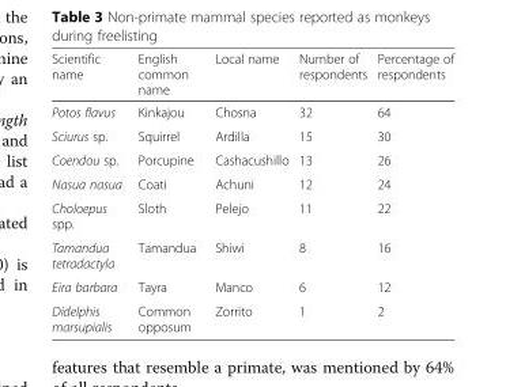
<table><thead><tr><td>Scientific name</td><td>English common name</td><td>Local name</td><td>Number of respondents</td><td>Percentage of respondents</td></tr></thead><tbody><tr><td>Potos flavus</td><td>Kinkajou</td><td>Chosna</td><td>32</td><td>64</td></tr><tr><td>Sciurus sp.</td><td>Squirrel</td><td>Ardilla</td><td>15</td><td>30</td></tr><tr><td>Coendou sp.</td><td>Porcupine</td><td>Cashacushillo</td><td>13</td><td>26</td></tr><tr><td>Nasua nasua</td><td>Coati</td><td>Achuni</td><td>12</td><td>24</td></tr><tr><td>Choloepus spp.</td><td>Sloth</td><td>Pelejo</td><td>11</td><td>22</td></tr><tr><td>Tamandua tetradactyla</td><td>Tamandua</td><td>Shiwi</td><td>8</td><td>16</td></tr><tr><td>Eira barbara</td><td>Tayra</td><td>Manco</td><td>6</td><td>12</td></tr><tr><td>Didelphis marsupialis</td><td>Common opposum</td><td>Zorrito</td><td>1</td><td>2</td></tr></tbody></table>